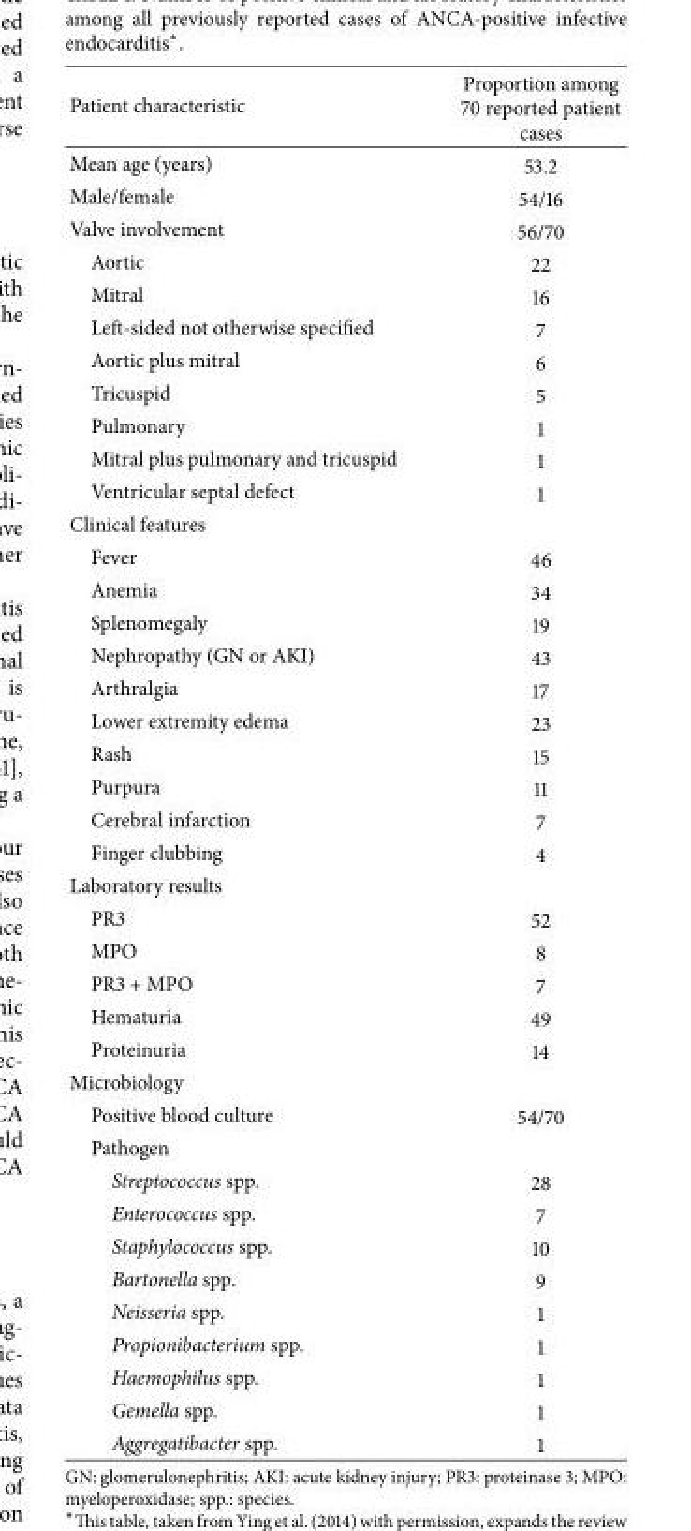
<table><thead><tr><td>Patient characteristic</td><td>Proportion among 70 reported patient cases</td></tr></thead><tbody><tr><td>Mean age (years)</td><td>53.2</td></tr><tr><td>Male/female</td><td>54/16</td></tr><tr><td>Valve involvement</td><td>56/70</td></tr><tr><td>Aortic</td><td>22</td></tr><tr><td>Mitral</td><td>16</td></tr><tr><td>Left-sided not otherwise specified</td><td>7</td></tr><tr><td>Aortic plus mitral</td><td>6</td></tr><tr><td>Tricuspid</td><td>5</td></tr><tr><td>Pulmonary</td><td>1</td></tr><tr><td>Mitral plus pulmonary and tricuspid</td><td>1</td></tr><tr><td>Ventricular septal defect</td><td>1</td></tr><tr><td colspan="2">Clinical features</td></tr><tr><td>Fever</td><td>46</td></tr><tr><td>Anemia</td><td>34</td></tr><tr><td>Splenomegaly</td><td>19</td></tr><tr><td>Nephropathy (GN or AKI)</td><td>43</td></tr><tr><td>Arthralgia</td><td>17</td></tr><tr><td>Lower extremity edema</td><td>23</td></tr><tr><td>Rash</td><td>15</td></tr><tr><td>Purpura</td><td>11</td></tr><tr><td>Cerebral infarction</td><td>7</td></tr><tr><td>Finger clubbing</td><td>4</td></tr><tr><td colspan="2">Laboratory results</td></tr><tr><td>PR3</td><td>52</td></tr><tr><td>MPO</td><td>8</td></tr><tr><td>PR3 + MPO</td><td>7</td></tr><tr><td>Hematuria</td><td>49</td></tr><tr><td>Proteinuria</td><td>14</td></tr><tr><td colspan="2">Microbiology</td></tr><tr><td>Positive blood culture</td><td>54/70</td></tr><tr><td colspan="2">Pathogen</td></tr><tr><td>Streptococcus spp.</td><td>28</td></tr><tr><td>Enterococcus spp.</td><td>7</td></tr><tr><td>Staphylococcus spp.</td><td>10</td></tr><tr><td>Bartonella spp.</td><td>9</td></tr><tr><td>Neisseria spp.</td><td>1</td></tr><tr><td>Propionibacterium spp.</td><td>1</td></tr><tr><td>Haemophilus spp.</td><td>1</td></tr><tr><td>Gemella spp.</td><td>1</td></tr><tr><td>Aggregatibacter spp.</td><td>1</td></tr></tbody></table>